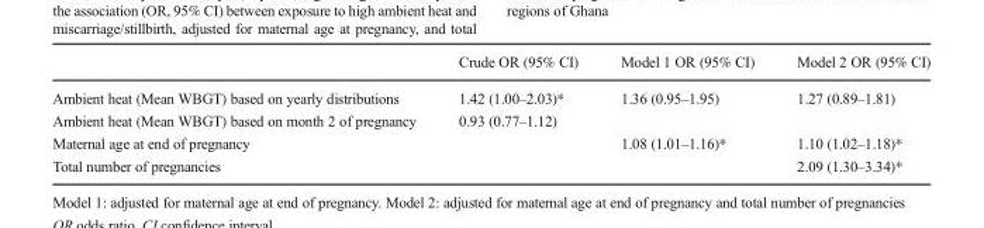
<table><thead><tr><td></td><td>Crude OR (95% CI)</td><td>Model 1 OR (95% CI)</td><td>Model 2 OR (95% CI)</td></tr></thead><tbody><tr><td>Ambient heat (Mean WBGT) based on yearly distributions</td><td>1.42 (1.00–2.03)*</td><td>1.36 (0.95–1.95)</td><td>1.27 (0.89–1.81)</td></tr><tr><td>Ambient heat (Mean WBGT) based on month 2 of pregnancy</td><td>0.93 (0.77–1.12)</td><td></td><td></td></tr><tr><td>Maternal age at end of pregnancy</td><td></td><td>1.08 (1.01–1.16)*</td><td>1.10 (1.02–1.18)*</td></tr><tr><td>Total number of pregnancies</td><td></td><td></td><td>2.09 (1.30–3.34)*</td></tr></tbody></table>